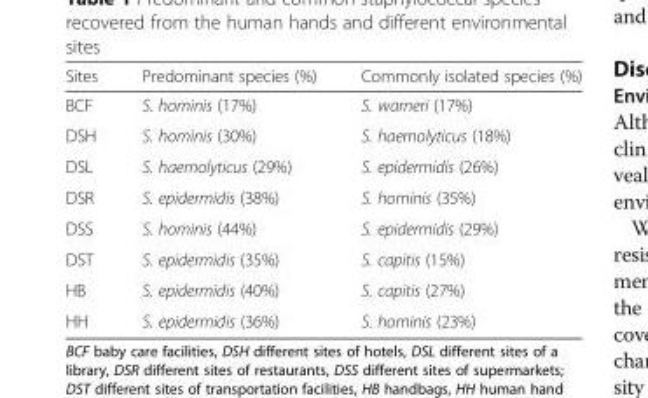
<table><thead><tr><td>Sites</td><td>Predominant species (%)</td><td>Commonly isolated species (%)</td></tr></thead><tbody><tr><td>BCF</td><td>S. hominis (17%)</td><td>S. warneri (17%)</td></tr><tr><td>DSH</td><td>S. hominis (30%)</td><td>S. haemolyticus (18%)</td></tr><tr><td>DSL</td><td>S. haemolyticus (29%)</td><td>S. epidermidis (26%)</td></tr><tr><td>DSR</td><td>S. epidermidis (38%)</td><td>S. hominis (35%)</td></tr><tr><td>DSS</td><td>S. hominis (44%)</td><td>S. epidermidis (29%)</td></tr><tr><td>DST</td><td>S. epidermidis (35%)</td><td>S. capitis (15%)</td></tr><tr><td>HB</td><td>S. epidermidis (40%)</td><td>S. capitis (27%)</td></tr><tr><td>HH</td><td>S. epidermidis (36%)</td><td>S. hominis (23%)</td></tr></tbody></table>